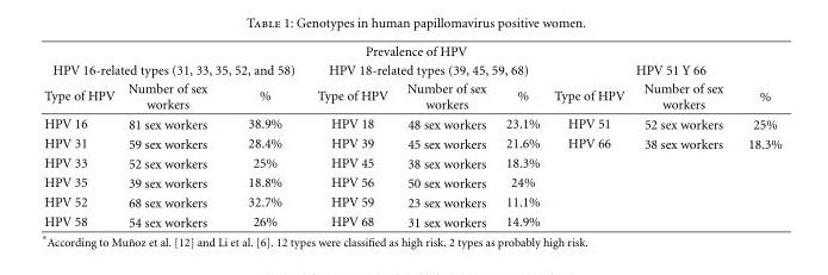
<table><thead><tr><td colspan="9">Prevalence of HPV</td></tr><tr><td colspan="3">HPV 16-related types (31, 33, 35, 52, and 58)</td><td colspan="3">HPV 18-related types (39, 45, 59, 68)</td><td colspan="3">HPV 51 Y 66</td></tr><tr><td>Type of HPV</td><td>Number of sex workers</td><td>%</td><td>Type of HPV</td><td>Number of sex workers</td><td>%</td><td>Type of HPV</td><td>Number of sex workers</td><td>%</td></tr></thead><tbody><tr><td>HPV 16</td><td>81 sex workers</td><td>38.9%</td><td>HPV 18</td><td>48 sex workers</td><td>23.1%</td><td>HPV 51</td><td>52 sex workers</td><td>25%</td></tr><tr><td>HPV 31</td><td>59 sex workers</td><td>28.4%</td><td>HPV 39</td><td>45 sex workers</td><td>21.6%</td><td>HPV 66</td><td>38 sex workers</td><td>18.3%</td></tr><tr><td>HPV 33</td><td>52 sex workers</td><td>25%</td><td>HPV 45</td><td>38 sex workers</td><td>18.3%</td><td></td><td></td><td></td></tr><tr><td>HPV 35</td><td>39 sex workers</td><td>18.8%</td><td>HPV 56</td><td>50 sex workers</td><td>24%</td><td></td><td></td><td></td></tr><tr><td>HPV 52</td><td>68 sex workers</td><td>32.7%</td><td>HPV 59</td><td>23 sex workers</td><td>11.1%</td><td></td><td></td><td></td></tr><tr><td>HPV 58</td><td>54 sex workers</td><td>26%</td><td>HPV 68</td><td>31 sex workers</td><td>14.9%</td><td></td><td></td><td></td></tr></tbody></table>